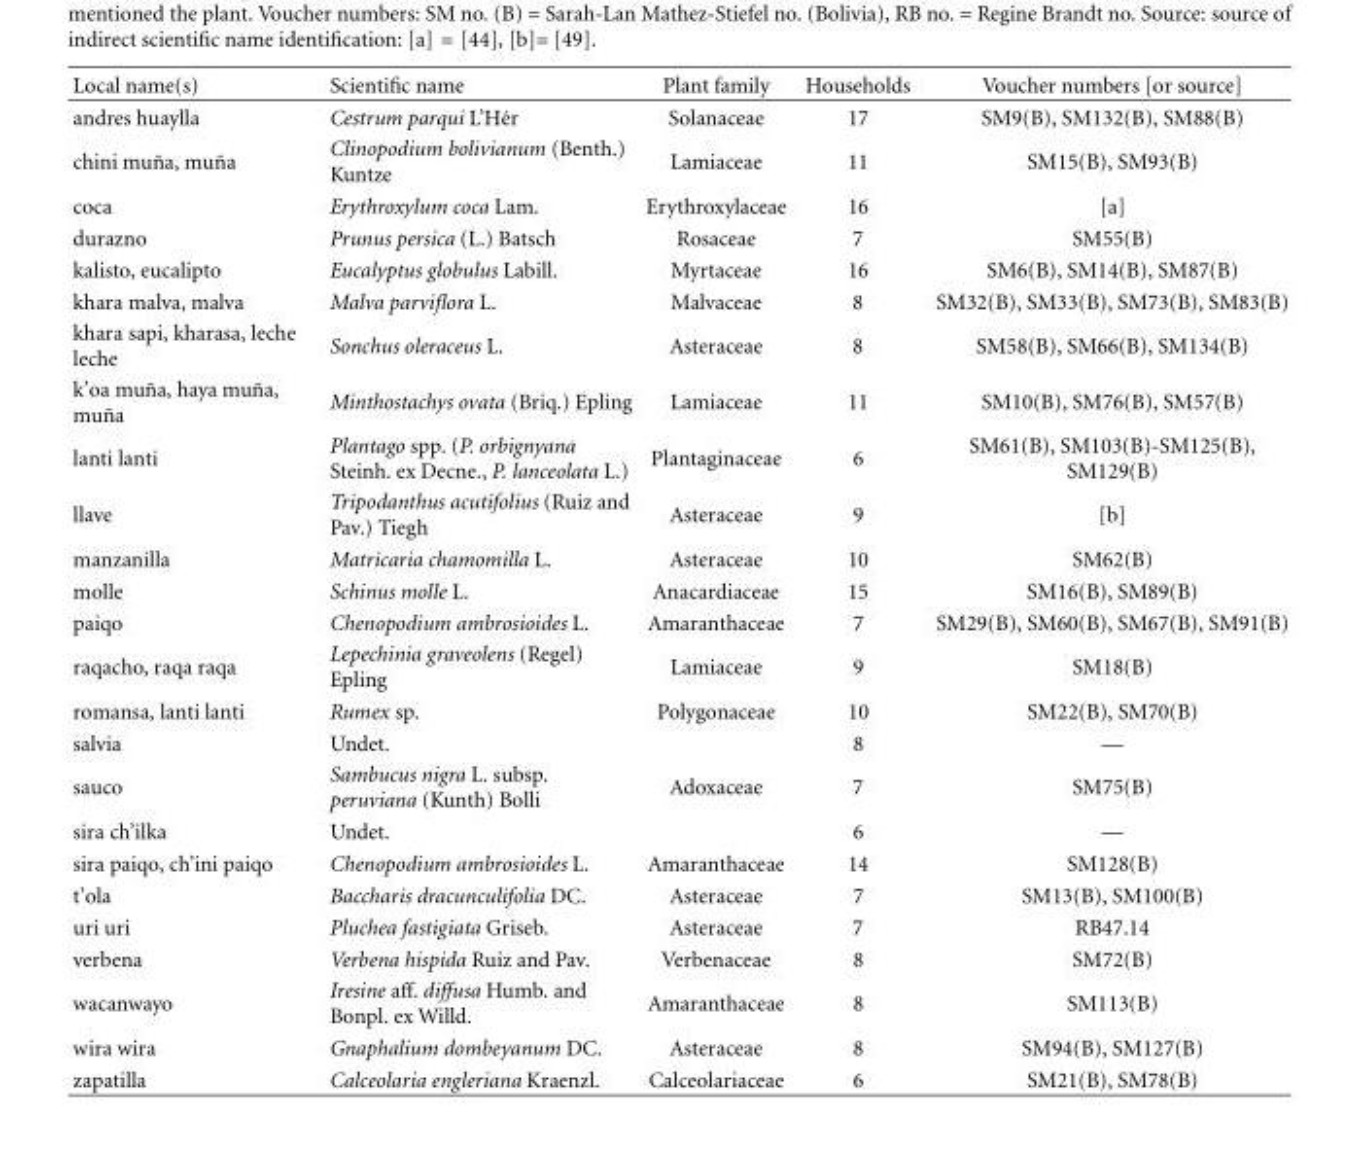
<table><thead><tr><td>Local name(s)</td><td>Scientific name</td><td>Plant family</td><td>Households</td><td>Voucher numbers [or source]</td></tr></thead><tbody><tr><td>andres huaylla</td><td>Cestrum parqui L’H´er</td><td>Solanaceae</td><td>17</td><td>SM9(B), SM132(B), SM88(B)</td></tr><tr><td>chini mu˜na, mu˜na</td><td>Clinopodium bolivianum (Benth.) Kuntze</td><td>Lamiaceae</td><td>11</td><td>SM15(B), SM93(B)</td></tr><tr><td>coca</td><td>Erythroxylum coca Lam.</td><td>Erythroxylaceae</td><td>16</td><td>[a]</td></tr><tr><td>durazno</td><td>Prunus persica (L.) Batsch</td><td>Rosaceae</td><td>7</td><td>SM55(B)</td></tr><tr><td>kalisto, eucalipto</td><td>Eucalyptus globulus Labill.</td><td>Myrtaceae</td><td>16</td><td>SM6(B), SM14(B), SM87(B)</td></tr><tr><td>khara malva, malva</td><td>Malva parviflora L.</td><td>Malvaceae</td><td>8</td><td>SM32(B), SM33(B), SM73(B), SM83(B)</td></tr><tr><td>khara sapi, kharasa, leche leche</td><td>Sonchus oleraceus L.</td><td>Asteraceae</td><td>8</td><td>SM58(B), SM66(B), SM134(B)</td></tr><tr><td>k’oa mu˜na, haya mu˜na, mu˜na</td><td>Minthostachys ovata (Briq.) Epling</td><td>Lamiaceae</td><td>11</td><td>SM10(B), SM76(B), SM57(B)</td></tr><tr><td>lanti lanti</td><td>Plantago spp. (P. orbignyana Steinh. ex Decne., P. lanceolata L.)</td><td>Plantaginaceae</td><td>6</td><td>SM61(B), SM103(B)-SM125(B), SM129(B)</td></tr><tr><td>llave</td><td>Tripodanthus acutifolius (Ruiz and Pav.) Tiegh</td><td>Asteraceae</td><td>9</td><td>[b]</td></tr><tr><td>manzanilla</td><td>Matricaria chamomilla L.</td><td>Asteraceae</td><td>10</td><td>SM62(B)</td></tr><tr><td>molle</td><td>Schinus molle L.</td><td>Anacardiaceae</td><td>15</td><td>SM16(B), SM89(B)</td></tr><tr><td>paiqo</td><td>Chenopodium ambrosioides L.</td><td>Amaranthaceae</td><td>7</td><td>SM29(B), SM60(B), SM67(B), SM91(B)</td></tr><tr><td>raqacho, raqa raqa</td><td>Lepechinia graveolens (Regel) Epling</td><td>Lamiaceae</td><td>9</td><td>SM18(B)</td></tr><tr><td>romansa, lanti lanti</td><td>Rumex sp.</td><td>Polygonaceae</td><td>10</td><td>SM22(B), SM70(B)</td></tr><tr><td>salvia</td><td>Undet.</td><td></td><td>8</td><td>—</td></tr><tr><td>sauco</td><td>Sambucus nigra L. subsp. peruviana (Kunth) Bolli</td><td>Adoxaceae</td><td>7</td><td>SM75(B)</td></tr><tr><td>sira ch’ilka</td><td>Undet.</td><td></td><td>6</td><td>—</td></tr><tr><td>sira paiqo, ch’ini paiqo</td><td>Chenopodium ambrosioides L.</td><td>Amaranthaceae</td><td>14</td><td>SM128(B)</td></tr><tr><td>t’ola</td><td>Baccharis dracunculifolia DC.</td><td>Asteraceae</td><td>7</td><td>SM13(B), SM100(B)</td></tr><tr><td>uri uri</td><td>Pluchea fastigiata Griseb.</td><td>Asteraceae</td><td>7</td><td>RB47.14</td></tr><tr><td>verbena</td><td>Verbena hispida Ruiz and Pav.</td><td>Verbenaceae</td><td>8</td><td>SM72(B)</td></tr><tr><td>wacanwayo</td><td>Iresine aff. diffusa Humb. and Bonpl. ex Willd.</td><td>Amaranthaceae</td><td>8</td><td>SM113(B)</td></tr><tr><td>wira wira</td><td>Gnaphalium dombeyanum DC.</td><td>Asteraceae</td><td>8</td><td>SM94(B), SM127(B)</td></tr><tr><td>zapatilla</td><td>Calceolaria engleriana Kraenzl.</td><td>Calceolariaceae</td><td>6</td><td>SM21(B), SM78(B)</td></tr></tbody></table>